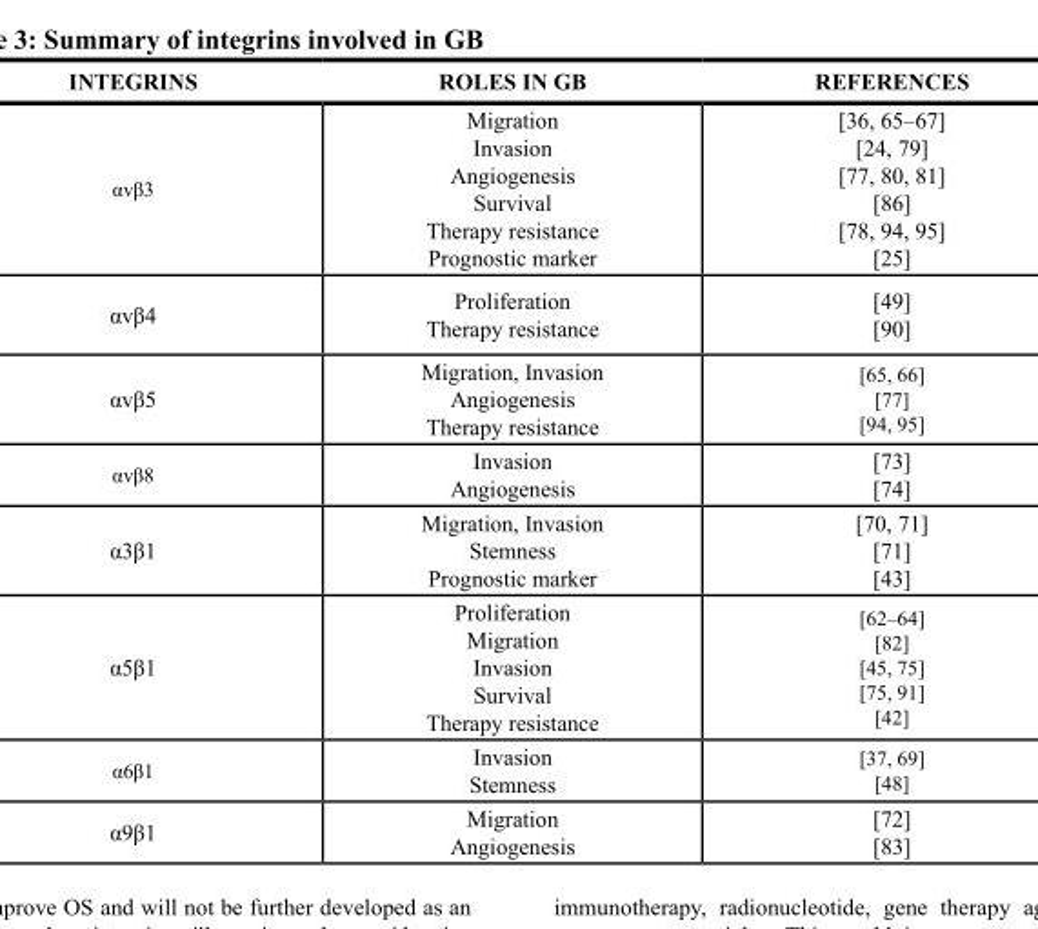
<table><thead><tr><td>INTEGRINS</td><td>ROLES IN GB</td><td>REFERENCES</td></tr></thead><tbody><tr><td>αvβ3</td><td>Migration Invasion Angiogenesis Survival Therapy resistance Prognostic marker</td><td>[36, 65–67] [24, 79] [77, 80, 81] [86] [78, 94, 95] [25]</td></tr><tr><td>αvβ4</td><td>Proliferation Therapy resistance</td><td>[49] [90]</td></tr><tr><td>αvβ5</td><td>Migration, Invasion Angiogenesis Therapy resistance</td><td>[65, 66] [77] [94, 95]</td></tr><tr><td>αvβ8</td><td>Invasion Angiogenesis</td><td>[73] [74]</td></tr><tr><td>α3β1</td><td>Migration, Invasion Stemness Prognostic marker</td><td>[70, 71] [71] [43]</td></tr><tr><td>α5β1</td><td>Proliferation Migration Invasion Survival Therapy resistance</td><td>[62–64] [82] [45, 75] [75, 91] [42]</td></tr><tr><td>α6β1</td><td>Invasion Stemness</td><td>[37, 69] [48]</td></tr><tr><td>α9β1</td><td>Migration Angiogenesis</td><td>[72] [83]</td></tr></tbody></table>